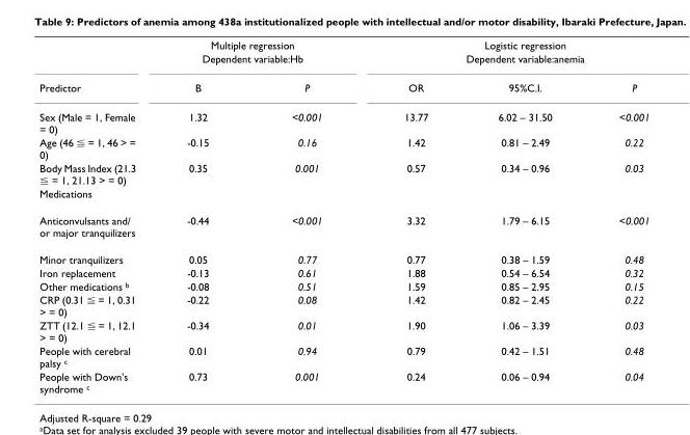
<table><thead><tr><td rowspan="3">Predictor</td><td rowspan="2" colspan="2">Multiple regression Dependent variable:Hb</td><td rowspan="2" colspan="3">Logistic regression Dependent variable:anemia</td></tr><tr></tr><tr><td>B</td><td>P</td><td>OR</td><td>95%C.I.</td><td>P</td></tr></thead><tbody><tr><td>Sex (Male = 1, Female = 0)</td><td>1.32</td><td>&lt;0.001</td><td>13.77</td><td>6.02 – 31.50</td><td>&lt;0.001</td></tr><tr><td>Age (46 ≦ = 1, 46 &gt; = 0)</td><td>-0.15</td><td>0.16</td><td>1.42</td><td>0.81 – 2.49</td><td>0.22</td></tr><tr><td>Body Mass Index (21.3 ≦ = 1, 21.13 &gt; = 0)</td><td>0.35</td><td>0.001</td><td>0.57</td><td>0.34 – 0.96</td><td>0.03</td></tr><tr><td colspan="6">Medications</td></tr><tr><td>Anticonvulsants and/ or major tranquilizers</td><td>-0.44</td><td>&lt;0.001</td><td>3.32</td><td>1.79 – 6.15</td><td>&lt;0.001</td></tr><tr><td>Minor tranquilizers</td><td>0.05</td><td>0.77</td><td>0.77</td><td>0.38 – 1.59</td><td>0.48</td></tr><tr><td>Iron replacement</td><td>-0.13</td><td>0.61</td><td>1.88</td><td>0.54 – 6.54</td><td>0.32</td></tr><tr><td>Other medications b</td><td>-0.08</td><td>0.51</td><td>1.59</td><td>0.85 – 2.95</td><td>0.15</td></tr><tr><td>CRP (0.31 ≦ = 1, 0.31 &gt; = 0)</td><td>-0.22</td><td>0.08</td><td>1.42</td><td>0.82 – 2.45</td><td>0.22</td></tr><tr><td>ZTT (12.1 ≦ = 1, 12.1 &gt; = 0)</td><td>-0.34</td><td>0.01</td><td>1.90</td><td>1.06 – 3.39</td><td>0.03</td></tr><tr><td>People with cerebral palsy c</td><td>0.01</td><td>0.94</td><td>0.79</td><td>0.42 – 1.51</td><td>0.48</td></tr><tr><td>People with Down&#x27;s syndrome c</td><td>0.73</td><td>0.001</td><td>0.24</td><td>0.06 – 0.94</td><td>0.04</td></tr></tbody></table>